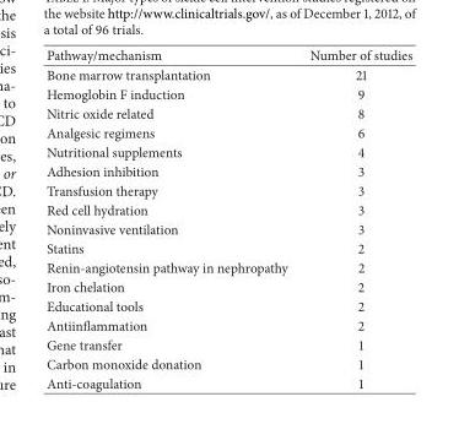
<table><thead><tr><td>Pathway/mechanism</td><td>Number of studies</td></tr></thead><tbody><tr><td>Bone marrow transplantation</td><td>21</td></tr><tr><td>Hemoglobin F induction</td><td>9</td></tr><tr><td>Nitric oxide related</td><td>8</td></tr><tr><td>Analgesic regimens</td><td>6</td></tr><tr><td>Nutritional supplements</td><td>4</td></tr><tr><td>Adhesion inhibition</td><td>3</td></tr><tr><td>Transfusion therapy</td><td>3</td></tr><tr><td>Red cell hydration</td><td>3</td></tr><tr><td>Noninvasive ventilation</td><td>3</td></tr><tr><td>Statins</td><td>2</td></tr><tr><td>Renin-angiotensin pathway in nephropathy</td><td>2</td></tr><tr><td>Iron chelation</td><td>2</td></tr><tr><td>Educational tools</td><td>2</td></tr><tr><td>Antiinflammation</td><td>2</td></tr><tr><td>Gene transfer</td><td>1</td></tr><tr><td>Carbon monoxide donation</td><td>1</td></tr><tr><td>Anti-coagulation</td><td>1</td></tr></tbody></table>